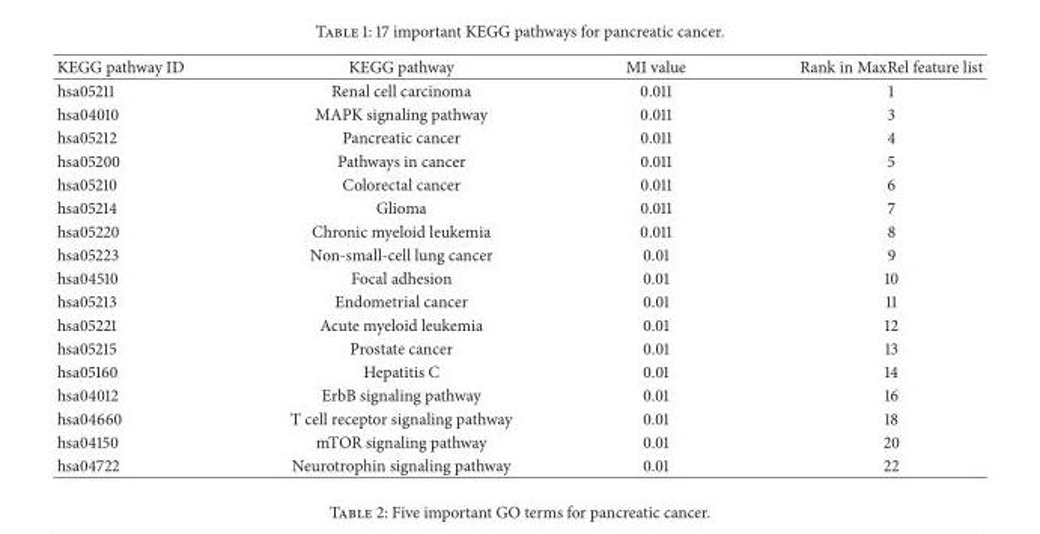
<table><thead><tr><td>KEGG pathway ID</td><td>KEGG pathway</td><td>MI value</td><td>Rank in MaxRel feature list</td></tr></thead><tbody><tr><td>hsa05211</td><td>Renal cell carcinoma</td><td>0.011</td><td>1</td></tr><tr><td>hsa04010</td><td>MAPK signaling pathway</td><td>0.011</td><td>3</td></tr><tr><td>hsa05212</td><td>Pancreatic cancer</td><td>0.011</td><td>4</td></tr><tr><td>hsa05200</td><td>Pathways in cancer</td><td>0.011</td><td>5</td></tr><tr><td>hsa05210</td><td>Colorectal cancer</td><td>0.011</td><td>6</td></tr><tr><td>hsa05214</td><td>Glioma</td><td>0.011</td><td>7</td></tr><tr><td>hsa05220</td><td>Chronic myeloid leukemia</td><td>0.011</td><td>8</td></tr><tr><td>hsa05223</td><td>Non-small-cell lung cancer</td><td>0.01</td><td>9</td></tr><tr><td>hsa04510</td><td>Focal adhesion</td><td>0.01</td><td>10</td></tr><tr><td>hsa05213</td><td>Endometrial cancer</td><td>0.01</td><td>11</td></tr><tr><td>hsa05221</td><td>Acute myeloid leukemia</td><td>0.01</td><td>12</td></tr><tr><td>hsa05215</td><td>Prostate cancer</td><td>0.01</td><td>13</td></tr><tr><td>hsa05160</td><td>Hepatitis C</td><td>0.01</td><td>14</td></tr><tr><td>hsa04012</td><td>ErbB signaling pathway</td><td>0.01</td><td>16</td></tr><tr><td>hsa04660</td><td>T cell receptor signaling pathway</td><td>0.01</td><td>18</td></tr><tr><td>hsa04150</td><td>mTOR signaling pathway</td><td>0.01</td><td>20</td></tr><tr><td>hsa04722</td><td>Neurotrophin signaling pathway</td><td>0.01</td><td>22</td></tr></tbody></table>